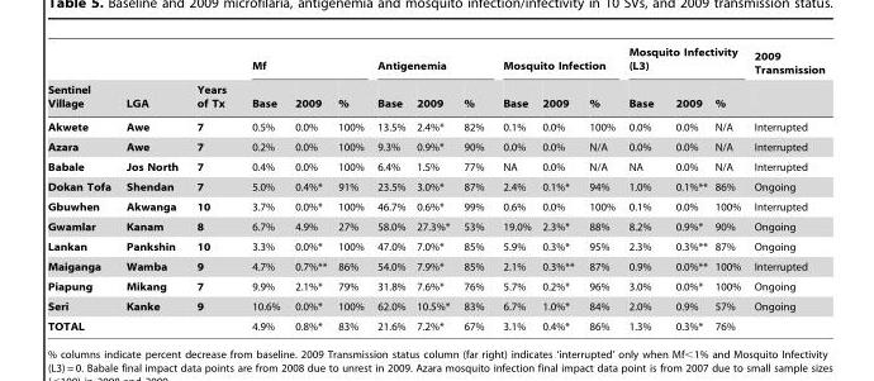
<table><thead><tr><td rowspan="2">Sentinel Village</td><td rowspan="2">LGA</td><td rowspan="2">Years of Tx</td><td colspan="3">Mf</td><td colspan="3">Antigenemia</td><td colspan="3">Mosquito Infection</td><td colspan="3">Mosquito Infectivity (L3)</td><td rowspan="2">2009 Transmission</td></tr><tr><td>Base</td><td>2009</td><td>%</td><td>Base</td><td>2009</td><td>%</td><td>Base</td><td>2009</td><td>%</td><td>Base</td><td>2009</td><td>%</td></tr></thead><tbody><tr><td>Akwete</td><td>Awe</td><td>7</td><td>0.5%</td><td>0.0%</td><td>100%</td><td>13.5%</td><td>2.4%*</td><td>82%</td><td>0.1%</td><td>0.0%</td><td>100%</td><td>0.0%</td><td>0.0%</td><td>N/A</td><td>Interrupted</td></tr><tr><td>Azara</td><td>Awe</td><td>7</td><td>0.2%</td><td>0.0%</td><td>100%</td><td>9.3%</td><td>0.9%*</td><td>90%</td><td>0.0%</td><td>0.0%</td><td>N/A</td><td>0.0%</td><td>0.0%</td><td>N/A</td><td>Interrupted</td></tr><tr><td>Babale</td><td>Jos North</td><td>7</td><td>0.4%</td><td>0.0%</td><td>100%</td><td>6.4%</td><td>1.5%</td><td>77%</td><td>NA</td><td>0.0%</td><td>N/A</td><td>NA</td><td>0.0%</td><td>N/A</td><td>Interrupted</td></tr><tr><td>Dokan Tofa</td><td>Shendan</td><td>7</td><td>5.0%</td><td>0.4%*</td><td>91%</td><td>23.5%</td><td>3.0%*</td><td>87%</td><td>2.4%</td><td>0.1%*</td><td>94%</td><td>1.0%</td><td>0.1%**</td><td>86%</td><td>Ongoing</td></tr><tr><td>Gbuwhen</td><td>Akwanga</td><td>10</td><td>3.7%</td><td>0.0%*</td><td>100%</td><td>46.7%</td><td>0.6%*</td><td>99%</td><td>0.6%</td><td>0.0%</td><td>100%</td><td>0.1%</td><td>0.0%</td><td>100%</td><td>Interrupted</td></tr><tr><td>Gwamlar</td><td>Kanam</td><td>8</td><td>6.7%</td><td>4.9%</td><td>27%</td><td>58.0%</td><td>27.3%*</td><td>53%</td><td>19.0%</td><td>2.3%*</td><td>88%</td><td>8.2%</td><td>0.9%*</td><td>90%</td><td>Ongoing</td></tr><tr><td>Lankan</td><td>Pankshin</td><td>10</td><td>3.3%</td><td>0.0%*</td><td>100%</td><td>47.0%</td><td>7.0%*</td><td>85%</td><td>5.9%</td><td>0.3%*</td><td>95%</td><td>2.3%</td><td>0.3%**</td><td>87%</td><td>Ongoing</td></tr><tr><td>Maiganga</td><td>Wamba</td><td>9</td><td>4.7%</td><td>0.7%**</td><td>86%</td><td>54.0%</td><td>7.9%*</td><td>85%</td><td>2.1%</td><td>0.3%**</td><td>87%</td><td>0.9%</td><td>0.0%**</td><td>100%</td><td>Interrupted</td></tr><tr><td>Piapung</td><td>Mikang</td><td>7</td><td>9.9%</td><td>2.1%*</td><td>79%</td><td>31.8%</td><td>7.6%*</td><td>76%</td><td>5.7%</td><td>0.2%*</td><td>96%</td><td>3.0%</td><td>0.0%*</td><td>100%</td><td>Ongoing</td></tr><tr><td>Seri</td><td>Kanke</td><td>9</td><td>10.6%</td><td>0.0%*</td><td>100%</td><td>62.0%</td><td>10.5%*</td><td>83%</td><td>6.7%</td><td>1.0%*</td><td>84%</td><td>2.0%</td><td>0.9%</td><td>57%</td><td>Ongoing</td></tr><tr><td colspan="3">TOTAL</td><td>4.9%</td><td>0.8%*</td><td>83%</td><td>21.6%</td><td>7.2%*</td><td>67%</td><td>3.1%</td><td>0.4%*</td><td>86%</td><td>1.3%</td><td>0.3%*</td><td>76%</td><td></td></tr></tbody></table>